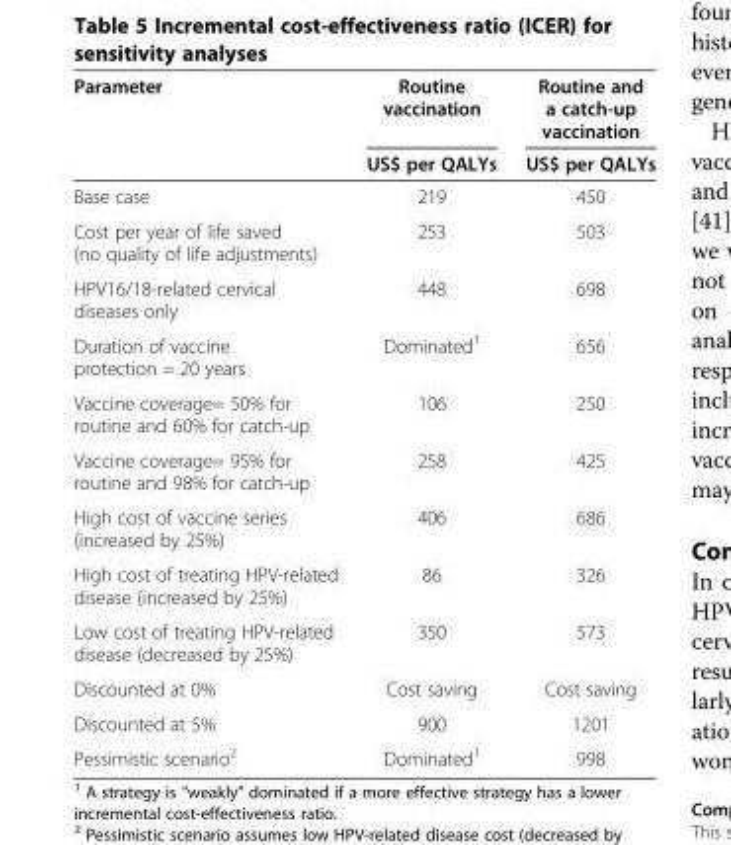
<table><thead><tr><td rowspan="2">Parameter</td><td rowspan="2">Routine vaccination US$ per QALYs</td><td rowspan="2">Routine and a catch-up vaccination US$ per QALYs</td></tr><tr></tr></thead><tbody><tr><td>Base case</td><td>219</td><td>450</td></tr><tr><td>Cost per year of life saved (no quality of life adjustments)</td><td>253</td><td>503</td></tr><tr><td>HPV16/18-related cervical diseases only</td><td>448</td><td>698</td></tr><tr><td>Duration of vaccine protection = 20 years</td><td>Dominated<sup>1</sup></td><td>656</td></tr><tr><td>Vaccine coverage= 50% for routine and 60% for catch-up</td><td>106</td><td>250</td></tr><tr><td>Vaccine coverage= 95% for routine and 98% for catch-up</td><td>258</td><td>425</td></tr><tr><td>High cost of vaccine series (increased by 25%)</td><td>406</td><td>686</td></tr><tr><td>High cost of treating HPV-related disease (increased by 25%)</td><td>86</td><td>326</td></tr><tr><td>Low cost of treating HPV-related disease (decreased by 25%)</td><td>350</td><td>573</td></tr><tr><td>Discounted at 0%</td><td>Cost saving</td><td>Cost saving</td></tr><tr><td>Discounted at 5%</td><td>900</td><td>1201</td></tr><tr><td>Pessimistic scenario<sup>2</sup></td><td>Dominated<sup>1</sup></td><td>998</td></tr></tbody></table>